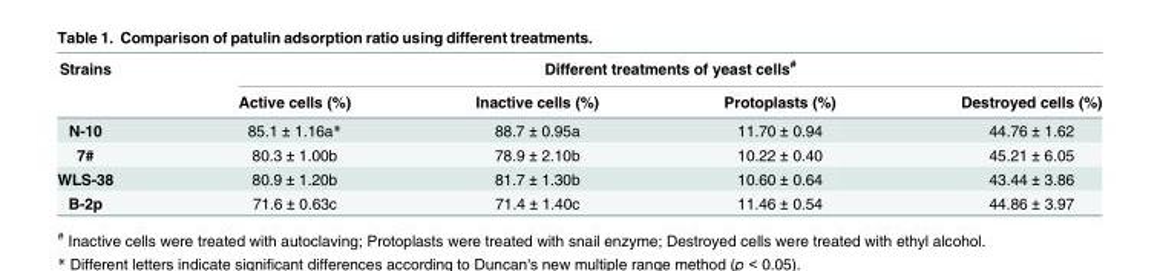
<table><thead><tr><td rowspan="2">Strains</td><td colspan="4">Different treatments of yeast cells<sup>#</sup></td></tr><tr><td>Active cells (%)</td><td>Inactive cells (%)</td><td>Protoplasts (%)</td><td>Destroyed cells (%)</td></tr></thead><tbody><tr><td>N-10</td><td>85.1 ± 1.16a*</td><td>88.7 ± 0.95a</td><td>11.70 ± 0.94</td><td>44.76 ± 1.62</td></tr><tr><td>7#</td><td>80.3 ± 1.00b</td><td>78.9 ± 2.10b</td><td>10.22 ± 0.40</td><td>45.21 ± 6.05</td></tr><tr><td>WLS-38</td><td>80.9 ± 1.20b</td><td>81.7 ± 1.30b</td><td>10.60 ± 0.64</td><td>43.44 ± 3.86</td></tr><tr><td>B-2p</td><td>71.6 ± 0.63c</td><td>71.4 ± 1.40c</td><td>11.46 ± 0.54</td><td>44.86 ± 3.97</td></tr></tbody></table>